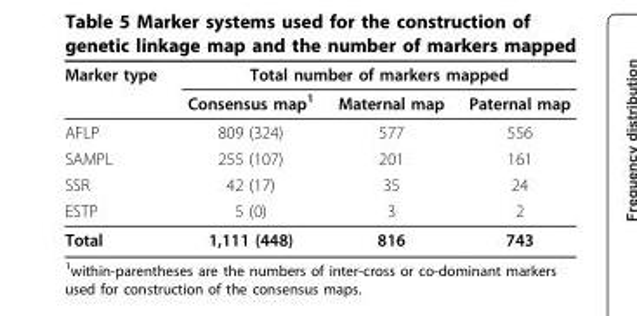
<table><thead><tr><td rowspan="2">Marker type</td><td colspan="3">Total number of markers mapped</td></tr><tr><td>Consensus map<sup>1</sup></td><td>Maternal map</td><td>Paternal map</td></tr></thead><tbody><tr><td>AFLP</td><td>809 (324)</td><td>577</td><td>556</td></tr><tr><td>SAMPL</td><td>255 (107)</td><td>201</td><td>161</td></tr><tr><td>SSR</td><td>42 (17)</td><td>35</td><td>24</td></tr><tr><td>ESTP</td><td>5 (0)</td><td>3</td><td>2</td></tr><tr><td>Total</td><td>1,111 (448)</td><td>816</td><td>743</td></tr></tbody></table>